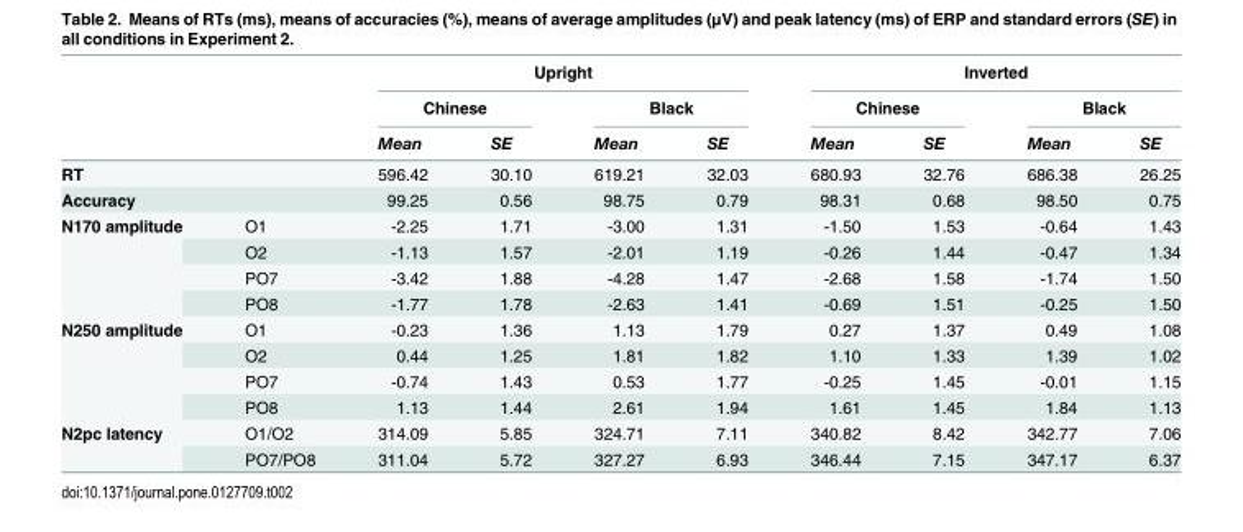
<table><thead><tr><td rowspan="3"></td><td rowspan="3"></td><td colspan="4">Upright</td><td colspan="4">Inverted</td></tr><tr><td colspan="2">Chinese</td><td colspan="2">Black</td><td colspan="2">Chinese</td><td colspan="2">Black</td></tr><tr><td>Mean</td><td>SE</td><td>Mean</td><td>SE</td><td>Mean</td><td>SE</td><td>Mean</td><td>SE</td></tr></thead><tbody><tr><td>RT</td><td></td><td>596.42</td><td>30.10</td><td>619.21</td><td>32.03</td><td>680.93</td><td>32.76</td><td>686.38</td><td>26.25</td></tr><tr><td>Accuracy</td><td></td><td>99.25</td><td>0.56</td><td>98.75</td><td>0.79</td><td>98.31</td><td>0.68</td><td>98.50</td><td>0.75</td></tr><tr><td rowspan="4">N170 amplitude</td><td>O1</td><td>-2.25</td><td>1.71</td><td>-3.00</td><td>1.31</td><td>-1.50</td><td>1.53</td><td>-0.64</td><td>1.43</td></tr><tr><td>O2</td><td>-1.13</td><td>1.57</td><td>-2.01</td><td>1.19</td><td>-0.26</td><td>1.44</td><td>-0.47</td><td>1.34</td></tr><tr><td>PO7</td><td>-3.42</td><td>1.88</td><td>-4.28</td><td>1.47</td><td>-2.68</td><td>1.58</td><td>-1.74</td><td>1.50</td></tr><tr><td>PO8</td><td>-1.77</td><td>1.78</td><td>-2.63</td><td>1.41</td><td>-0.69</td><td>1.51</td><td>-0.25</td><td>1.50</td></tr><tr><td rowspan="4">N250 amplitude</td><td>O1</td><td>-0.23</td><td>1.36</td><td>1.13</td><td>1.79</td><td>0.27</td><td>1.37</td><td>0.49</td><td>1.08</td></tr><tr><td>O2</td><td>0.44</td><td>1.25</td><td>1.81</td><td>1.82</td><td>1.10</td><td>1.33</td><td>1.39</td><td>1.02</td></tr><tr><td>PO7</td><td>-0.74</td><td>1.43</td><td>0.53</td><td>1.77</td><td>-0.25</td><td>1.45</td><td>-0.01</td><td>1.15</td></tr><tr><td>PO8</td><td>1.13</td><td>1.44</td><td>2.61</td><td>1.94</td><td>1.61</td><td>1.45</td><td>1.84</td><td>1.13</td></tr><tr><td rowspan="2">N2pc latency</td><td>O1/O2</td><td>314.09</td><td>5.85</td><td>324.71</td><td>7.11</td><td>340.82</td><td>8.42</td><td>342.77</td><td>7.06</td></tr><tr><td>PO7/PO8</td><td>311.04</td><td>5.72</td><td>327.27</td><td>6.93</td><td>346.44</td><td>7.15</td><td>347.17</td><td>6.37</td></tr></tbody></table>